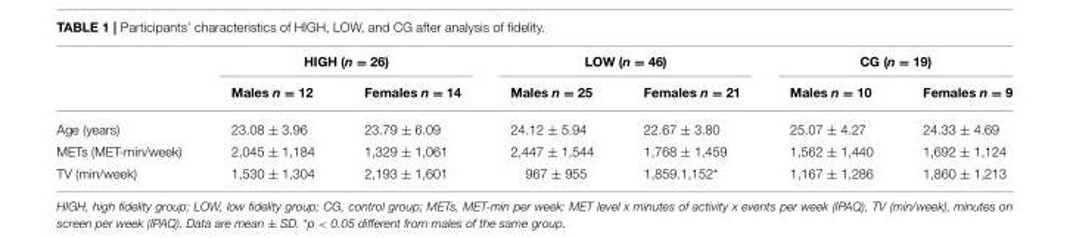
<table><thead><tr><td rowspan="2"></td><td colspan="2">HIGH (n = 26)</td><td colspan="2">LOW (n = 46)</td><td colspan="2">CG (n = 19)</td></tr><tr><td>Males n = 12</td><td>Females n = 14</td><td>Males n = 25</td><td>Females n = 21</td><td>Males n = 10</td><td>Females n = 9</td></tr></thead><tbody><tr><td>Age (years)</td><td>23.08 ± 3.96</td><td>23.79 ± 6.09</td><td>24.12 ± 5.94</td><td>22.67 ± 3.80</td><td>25.07 ± 4.27</td><td>24.33 ± 4.69</td></tr><tr><td>METs (MET-min/week)</td><td>2,045 ± 1,184</td><td>1,329 ± 1,061</td><td>2,447 ± 1,544</td><td>1,768 ± 1,459</td><td>1,562 ± 1,440</td><td>1,692 ± 1,124</td></tr><tr><td>TV (min/week)</td><td>1,530 ± 1,304</td><td>2,193 ± 1,601</td><td>967 ± 955</td><td>1,859.1,152*</td><td>1,167 ± 1,286</td><td>1,860 ± 1,213</td></tr></tbody></table>